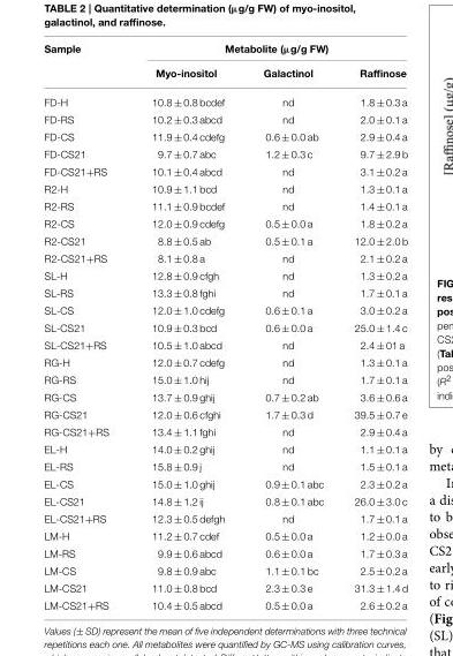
<table><thead><tr><td rowspan="2">Sample</td><td colspan="3">Metabolite (µg/g FW)</td></tr><tr><td>Myo-inositol</td><td>Galactinol</td><td>Raffinose</td></tr></thead><tbody><tr><td>FD-H</td><td>10.8 ± 0.8 bcdef</td><td>nd</td><td>1.8 ± 0.3 a</td></tr><tr><td>FD-RS</td><td>10.2 ± 0.3 abcd</td><td>nd</td><td>2.0 ± 0.1 a</td></tr><tr><td>FD-CS</td><td>11.9 ± 0.4 cdefg</td><td>0.6 ± 0.0 ab</td><td>2.9 ± 0.4 a</td></tr><tr><td>FD-CS21</td><td>9.7 ± 0.7 abc</td><td>1.2 ± 0.3 c</td><td>9.7 ± 2.9 b</td></tr><tr><td>FD-CS21+RS</td><td>10.1 ± 0.4 abcd</td><td>nd</td><td>3.1 ± 0.2 a</td></tr><tr><td>R2-H</td><td>10.9 ± 1.1 bcd</td><td>nd</td><td>1.3 ± 0.1 a</td></tr><tr><td>R2-RS</td><td>11.1 ± 0.9 bcdef</td><td>nd</td><td>1.4 ± 0.1 a</td></tr><tr><td>R2-CS</td><td>12.0 ± 0.9 cdefg</td><td>0.5 ± 0.0 a</td><td>1.8 ± 0.2 a</td></tr><tr><td>R2-CS21</td><td>8.8 ± 0.5 ab</td><td>0.5 ± 0.1 a</td><td>12.0 ± 2.0 b</td></tr><tr><td>R2-CS21+RS</td><td>8.1 ± 0.8 a</td><td>nd</td><td>2.1 ± 0.2 a</td></tr><tr><td>SL-H</td><td>12.8 ± 0.9 cfgh</td><td>nd</td><td>1.3 ± 0.2 a</td></tr><tr><td>SL-RS</td><td>13.3 ± 0.8 fghi</td><td>nd</td><td>1.7 ± 0.1 a</td></tr><tr><td>SL-CS</td><td>12.0 ± 1.0 cdefg</td><td>0.6 ± 0.1 a</td><td>3.0 ± 0.2 a</td></tr><tr><td>SL-CS21</td><td>10.9 ± 0.3 bcd</td><td>0.6 ± 0.0 a</td><td>25.0 ± 1.4 c</td></tr><tr><td>SL-CS21+RS</td><td>10.5 ± 1.0 abcd</td><td>nd</td><td>2.4 ± 01 a</td></tr><tr><td>RG-H</td><td>12.0 ± 0.7 cdefg</td><td>nd</td><td>1.3 ± 0.1 a</td></tr><tr><td>RG-RS</td><td>15.0 ± 1.0 hij</td><td>nd</td><td>1.7 ± 0.1 a</td></tr><tr><td>RG-CS</td><td>13.7 ± 0.9 ghij</td><td>0.7 ± 0.2 ab</td><td>3.6 ± 0.6 a</td></tr><tr><td>RG-CS21</td><td>12.0 ± 0.6 cfghi</td><td>1.7 ± 0.3 d</td><td>39.5 ± 0.7 e</td></tr><tr><td>RG-CS21+RS</td><td>13.4 ± 1.1 fghi</td><td>nd</td><td>2.9 ± 0.4 a</td></tr><tr><td>EL-H</td><td>14.0 ± 0.2 ghij</td><td>nd</td><td>1.1 ± 0.1 a</td></tr><tr><td>EL-RS</td><td>15.8 ± 0.9 j</td><td>nd</td><td>1.5 ± 0.1 a</td></tr><tr><td>EL-CS</td><td>15.0 ± 1.0 ghij</td><td>0.9 ± 0.1 abc</td><td>2.3 ± 0.2 a</td></tr><tr><td>EL-CS21</td><td>14.8 ± 1.2 ij</td><td>0.8 ± 0.1 abc</td><td>26.0 ± 3.0 c</td></tr><tr><td>EL-CS21+RS</td><td>12.3 ± 0.5 defgh</td><td>nd</td><td>1.7 ± 0.1 a</td></tr><tr><td>LM-H</td><td>11.2 ± 0.7 cdef</td><td>0.5 ± 0.0 a</td><td>1.2 ± 0.0 a</td></tr><tr><td>LM-RS</td><td>9.9 ± 0.6 abcd</td><td>0.6 ± 0.0 a</td><td>1.7 ± 0.3 a</td></tr><tr><td>LM-CS</td><td>9.8 ± 0.9 abc</td><td>1.1 ± 0.1 bc</td><td>2.5 ± 0.2 a</td></tr><tr><td>LM-CS21</td><td>11.0 ± 0.8 bcd</td><td>2.3 ± 0.3 e</td><td>31.3 ± 1.4 d</td></tr><tr><td>LM-CS21+RS</td><td>10.4 ± 0.5 abcd</td><td>0.5 ± 0.0 a</td><td>2.6 ± 0.2 a</td></tr></tbody></table>